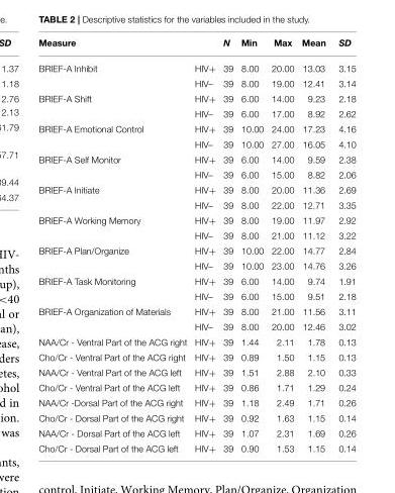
<table><thead><tr><td>Measure</td><td></td><td>N</td><td>Min</td><td>Max</td><td>Mean</td><td>SD</td></tr></thead><tbody><tr><td rowspan="2">BRIEF-A Inhibit</td><td>HIV+</td><td>39</td><td>8.00</td><td>20.00</td><td>13.03</td><td>3.15</td></tr><tr><td>HIV–</td><td>39</td><td>8.00</td><td>19.00</td><td>12.41</td><td>3.14</td></tr><tr><td rowspan="2">BRIEF-A Shift</td><td>HIV+</td><td>39</td><td>6.00</td><td>14.00</td><td>9.23</td><td>2.18</td></tr><tr><td>HIV–</td><td>39</td><td>6.00</td><td>17.00</td><td>8.92</td><td>2.62</td></tr><tr><td rowspan="2">BRIEF-A Emotional Control</td><td>HIV+</td><td>39</td><td>10.00</td><td>24.00</td><td>17.23</td><td>4.16</td></tr><tr><td>HIV–</td><td>39</td><td>10.00</td><td>27.00</td><td>16.05</td><td>4.10</td></tr><tr><td rowspan="2">BRIEF-A Self Monitor</td><td>HIV+</td><td>39</td><td>6.00</td><td>14.00</td><td>9.59</td><td>2.38</td></tr><tr><td>HIV–</td><td>39</td><td>6.00</td><td>15.00</td><td>8.82</td><td>2.06</td></tr><tr><td rowspan="2">BRIEF-A Initiate</td><td>HIV+</td><td>39</td><td>8.00</td><td>20.00</td><td>11.36</td><td>2.69</td></tr><tr><td>HIV–</td><td>39</td><td>8.00</td><td>22.00</td><td>12.71</td><td>3.35</td></tr><tr><td rowspan="2">BRIEF-A Working Memory</td><td>HIV+</td><td>39</td><td>8.00</td><td>19.00</td><td>11.97</td><td>2.92</td></tr><tr><td>HIV–</td><td>39</td><td>8.00</td><td>21.00</td><td>11.12</td><td>3.22</td></tr><tr><td rowspan="2">BRIEF-A Plan/Organize</td><td>HIV+</td><td>39</td><td>10.00</td><td>22.00</td><td>14.77</td><td>2.84</td></tr><tr><td>HIV–</td><td>39</td><td>10.00</td><td>23.00</td><td>14.76</td><td>3.26</td></tr><tr><td rowspan="2">BRIEF-A Task Monitoring</td><td>HIV+</td><td>39</td><td>6.00</td><td>14.00</td><td>9.74</td><td>1.91</td></tr><tr><td>HIV–</td><td>39</td><td>6.00</td><td>15.00</td><td>9.51</td><td>2.18</td></tr><tr><td rowspan="2">BRIEF-A Organization of Materials</td><td>HIV+</td><td>39</td><td>8.00</td><td>21.00</td><td>11.56</td><td>3.11</td></tr><tr><td>HIV–</td><td>39</td><td>8.00</td><td>20.00</td><td>12.46</td><td>3.02</td></tr><tr><td>NAA/Cr - Ventral Part of the ACG right</td><td>HIV+</td><td>39</td><td>1.44</td><td>2.11</td><td>1.78</td><td>0.13</td></tr><tr><td>Cho/Cr - Ventral Part of the ACG right</td><td>HIV+</td><td>39</td><td>0.89</td><td>1.50</td><td>1.15</td><td>0.13</td></tr><tr><td>NAA/Cr - Ventral Part of the ACG left</td><td>HIV+</td><td>39</td><td>1.51</td><td>2.88</td><td>2.10</td><td>0.33</td></tr><tr><td>Cho/Cr - Ventral Part of the ACG left</td><td>HIV+</td><td>39</td><td>0.86</td><td>1.71</td><td>1.29</td><td>0.24</td></tr><tr><td>NAA/Cr -Dorsal Part of the ACG right</td><td>HIV+</td><td>39</td><td>1.18</td><td>2.49</td><td>1.71</td><td>0.26</td></tr><tr><td>Cho/Cr - Dorsal Part of the ACG right</td><td>HIV+</td><td>39</td><td>0.92</td><td>1.63</td><td>1.15</td><td>0.14</td></tr><tr><td>NAA/Cr - Dorsal Part of the ACG left</td><td>HIV+</td><td>39</td><td>1.07</td><td>2.31</td><td>1.69</td><td>0.26</td></tr><tr><td>Cho/Cr - Dorsal Part of the ACG left</td><td>HIV+</td><td>39</td><td>0.90</td><td>1.53</td><td>1.15</td><td>0.14</td></tr></tbody></table>